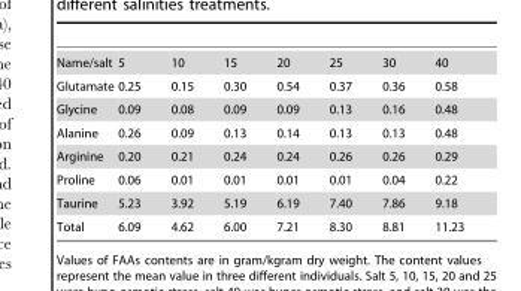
<table><tbody><tr><td>Name/salt</td><td>5</td><td>10</td><td>15</td><td>20</td><td>25</td><td>30</td><td>40</td></tr><tr><td>Glutamate</td><td>0.25</td><td>0.15</td><td>0.30</td><td>0.54</td><td>0.37</td><td>0.36</td><td>0.58</td></tr><tr><td>Glycine</td><td>0.09</td><td>0.08</td><td>0.09</td><td>0.09</td><td>0.13</td><td>0.16</td><td>0.48</td></tr><tr><td>Alanine</td><td>0.26</td><td>0.09</td><td>0.13</td><td>0.14</td><td>0.13</td><td>0.13</td><td>0.48</td></tr><tr><td>Arginine</td><td>0.20</td><td>0.21</td><td>0.24</td><td>0.24</td><td>0.26</td><td>0.26</td><td>0.29</td></tr><tr><td>Proline</td><td>0.06</td><td>0.01</td><td>0.01</td><td>0.01</td><td>0.01</td><td>0.04</td><td>0.22</td></tr><tr><td>Taurine</td><td>5.23</td><td>3.92</td><td>5.19</td><td>6.19</td><td>7.40</td><td>7.86</td><td>9.18</td></tr><tr><td>Total</td><td>6.09</td><td>4.62</td><td>6.00</td><td>7.21</td><td>8.30</td><td>8.81</td><td>11.23</td></tr></tbody></table>